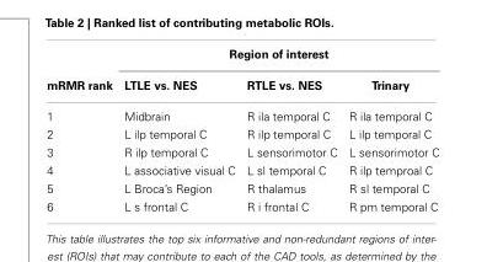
<table><thead><tr><td rowspan="2">mRMR rank</td><td colspan="3">Region of interest</td></tr><tr><td>LTLE vs. NES</td><td>RTLE vs. NES</td><td>Trinary</td></tr></thead><tbody><tr><td>1</td><td>Midbrain</td><td>R ila temporal C</td><td>R ila temporal C</td></tr><tr><td>2</td><td>L ilp temporal C</td><td>R ilp temporal C</td><td>L ilp temporal C</td></tr><tr><td>3</td><td>R ilp temporal C</td><td>L sensorimotor C</td><td>L sensorimotor C</td></tr><tr><td>4</td><td>L associative visual C</td><td>L sl temporal C</td><td>R ilp temproal C</td></tr><tr><td>5</td><td>L Broca’s Region</td><td>R thalamus</td><td>R sl temporal C</td></tr><tr><td>6</td><td>L s frontal C</td><td>R i frontal C</td><td>R pm temporal C</td></tr></tbody></table>